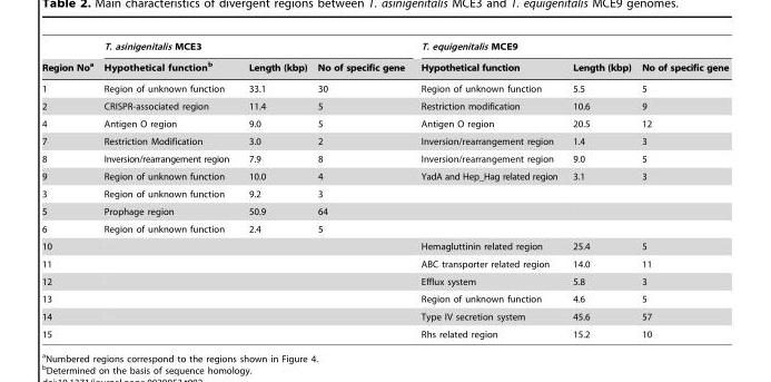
<table><thead><tr><td rowspan="2">Region No<sup>a</sup></td><td colspan="3">T. asinigenitalis MCE3</td><td colspan="3">T. equigenitalis MCE9</td></tr><tr><td>Hypothetical function<sup>b</sup></td><td>Length (kbp)</td><td>No of specific gene</td><td>Hypothetical function</td><td>Length (kbp)</td><td>No of specific gene</td></tr></thead><tbody><tr><td>1</td><td>Region of unknown function</td><td>33.1</td><td>30</td><td>Region of unknown function</td><td>5.5</td><td>5</td></tr><tr><td>2</td><td>CRISPR-associated region</td><td>11.4</td><td>5</td><td>Restriction modification</td><td>10.6</td><td>9</td></tr><tr><td>4</td><td>Antigen O region</td><td>9.0</td><td>5</td><td>Antigen O region</td><td>20.5</td><td>12</td></tr><tr><td>7</td><td>Restriction Modification</td><td>3.0</td><td>2</td><td>Inversion/rearrangement region</td><td>1.4</td><td>3</td></tr><tr><td>8</td><td>Inversion/rearrangement region</td><td>7.9</td><td>8</td><td>Inversion/rearrangement region</td><td>9.0</td><td>5</td></tr><tr><td>9</td><td>Region of unknown function</td><td>10.0</td><td>4</td><td>YadA and Hep_Hag related region</td><td>3.1</td><td>3</td></tr><tr><td>3</td><td>Region of unknown function</td><td>9.2</td><td>3</td><td></td><td></td><td></td></tr><tr><td>5</td><td>Prophage region</td><td>50.9</td><td>64</td><td></td><td></td><td></td></tr><tr><td>6</td><td>Region of unknown function</td><td>2.4</td><td>5</td><td></td><td></td><td></td></tr><tr><td>10</td><td></td><td></td><td></td><td>Hemagluttinin related region</td><td>25.4</td><td>5</td></tr><tr><td>11</td><td></td><td></td><td></td><td>ABC transporter related region</td><td>14.0</td><td>11</td></tr><tr><td>12</td><td></td><td></td><td></td><td>Efflux system</td><td>5.8</td><td>3</td></tr><tr><td>13</td><td></td><td></td><td></td><td>Region of unknown function</td><td>4.6</td><td>5</td></tr><tr><td>14</td><td></td><td></td><td></td><td>Type IV secretion system</td><td>45.6</td><td>57</td></tr><tr><td>15</td><td></td><td></td><td></td><td>Rhs related region</td><td>15.2</td><td>10</td></tr></tbody></table>